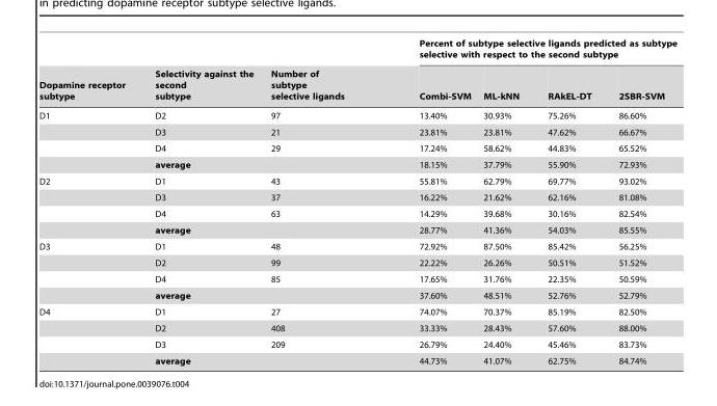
<table><thead><tr><td rowspan="2">Dopamine receptor subtype</td><td rowspan="2">Selectivity against the second subtype</td><td rowspan="2">Number of subtype selective ligands</td><td colspan="4">Percent of subtype selective ligands predicted as subtype selective with respect to the second subtype</td></tr><tr><td>Combi-SVM</td><td>ML-kNN</td><td>RAkEL-DT</td><td>2SBR-SVM</td></tr></thead><tbody><tr><td rowspan="4">D1</td><td>D2</td><td>97</td><td>13.40%</td><td>30.93%</td><td>75.26%</td><td>86.60%</td></tr><tr><td>D3</td><td>21</td><td>23.81%</td><td>23.81%</td><td>47.62%</td><td>66.67%</td></tr><tr><td>D4</td><td>29</td><td>17.24%</td><td>58.62%</td><td>44.83%</td><td>65.52%</td></tr><tr><td>average</td><td></td><td>18.15%</td><td>37.79%</td><td>55.90%</td><td>72.93%</td></tr><tr><td rowspan="4">D2</td><td>D1</td><td>43</td><td>55.81%</td><td>62.79%</td><td>69.77%</td><td>93.02%</td></tr><tr><td>D3</td><td>37</td><td>16.22%</td><td>21.62%</td><td>62.16%</td><td>81.08%</td></tr><tr><td>D4</td><td>63</td><td>14.29%</td><td>39.68%</td><td>30.16%</td><td>82.54%</td></tr><tr><td>average</td><td></td><td>28.77%</td><td>41.36%</td><td>54.03%</td><td>85.55%</td></tr><tr><td rowspan="4">D3</td><td>D1</td><td>48</td><td>72.92%</td><td>87.50%</td><td>85.42%</td><td>56.25%</td></tr><tr><td>D2</td><td>99</td><td>22.22%</td><td>26.26%</td><td>50.51%</td><td>51.52%</td></tr><tr><td>D4</td><td>85</td><td>17.65%</td><td>31.76%</td><td>22.35%</td><td>50.59%</td></tr><tr><td>average</td><td></td><td>37.60%</td><td>48.51%</td><td>52.76%</td><td>52.79%</td></tr><tr><td rowspan="4">D4</td><td>D1</td><td>27</td><td>74.07%</td><td>70.37%</td><td>85.19%</td><td>82.50%</td></tr><tr><td>D2</td><td>408</td><td>33.33%</td><td>28.43%</td><td>57.60%</td><td>88.00%</td></tr><tr><td>D3</td><td>209</td><td>26.79%</td><td>24.40%</td><td>45.46%</td><td>83.73%</td></tr><tr><td>average</td><td></td><td>44.73%</td><td>41.07%</td><td>62.75%</td><td>84.74%</td></tr></tbody></table>